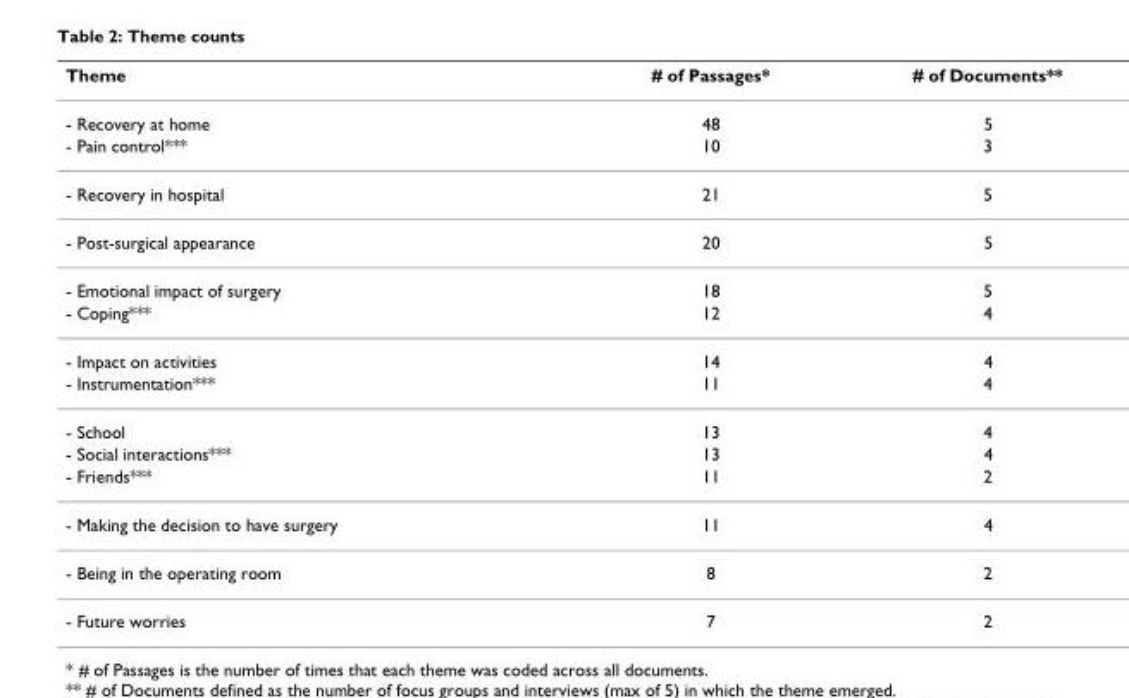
<table><thead><tr><td>Theme</td><td># of Passages*</td><td># of Documents**</td></tr></thead><tbody><tr><td>- Recovery at home</td><td>48</td><td>5</td></tr><tr><td>- Pain control***</td><td>10</td><td>3</td></tr><tr><td>- Recovery in hospital</td><td>21</td><td>5</td></tr><tr><td>- Post-surgical appearance</td><td>20</td><td>5</td></tr><tr><td>- Emotional impact of surgery</td><td>18</td><td>5</td></tr><tr><td>- Coping***</td><td>12</td><td>4</td></tr><tr><td>- Impact on activities</td><td>14</td><td>4</td></tr><tr><td>- Instrumentation***</td><td>11</td><td>4</td></tr><tr><td>- School</td><td>13</td><td>4</td></tr><tr><td>- Social interactions***</td><td>13</td><td>4</td></tr><tr><td>- Friends***</td><td>11</td><td>2</td></tr><tr><td>- Making the decision to have surgery</td><td>11</td><td>4</td></tr><tr><td>- Being in the operating room</td><td>8</td><td>2</td></tr><tr><td>- Future worries</td><td>7</td><td>2</td></tr></tbody></table>